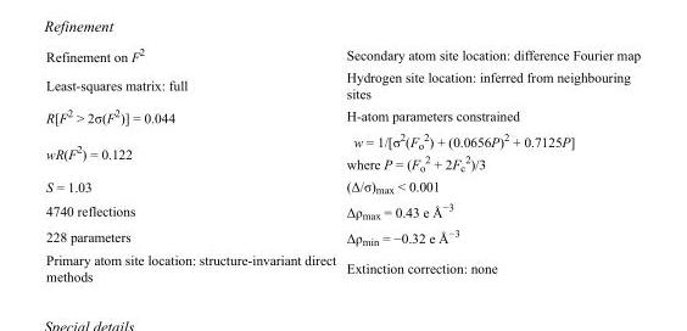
<table><tbody><tr><td>Refinement on F<sup>2</sup></td><td>Secondary atom site location: difference Fourier map</td></tr><tr><td>Least-squares matrix: full</td><td>Hydrogen site location: inferred from neighbouring sites</td></tr><tr><td>R[F<sup>2</sup> &gt; 2σ(F<sup>2</sup>)] = 0.044</td><td>H-atom parameters constrained</td></tr><tr><td>wR(F<sup>2</sup>) = 0.122</td><td>w = 1/[σ<sup>2</sup>(F<sub>o</sub> <sup>2</sup>) + (0.0656P)<sup>2</sup> + 0.7125P] where P = (F<sub>o</sub> <sup>2</sup> + 2F<sub>c</sub> <sup>2</sup>)/3</td></tr><tr><td>S = 1.03</td><td>(Δ/σ)<sub>max</sub> &lt; 0.001</td></tr><tr><td>4740 reflections</td><td>Δρ<sub>max</sub> = 0.43 e Å<sup>−3</sup></td></tr><tr><td>228 parameters</td><td>Δρ<sub>min</sub> = −0.32 e Å<sup>−3</sup></td></tr><tr><td>Primary atom site location: structure-invariant direct methods</td><td>Extinction correction: none</td></tr></tbody></table>